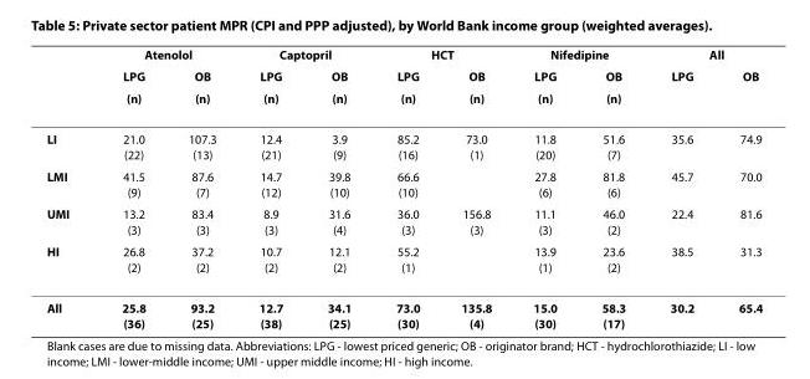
<table><thead><tr><td rowspan="3"></td><td colspan="2">Atenolol</td><td colspan="2">Captopril</td><td colspan="2">HCT</td><td colspan="2">Nifedipine</td><td colspan="2">All</td></tr><tr><td rowspan="2">LPG (n)</td><td rowspan="2">OB (n)</td><td rowspan="2">LPG (n)</td><td rowspan="2">OB (n)</td><td rowspan="2">LPG (n)</td><td rowspan="2">OB (n)</td><td rowspan="2">LPG (n)</td><td rowspan="2">OB (n)</td><td rowspan="2">LPG</td><td rowspan="2">OB</td></tr><tr></tr></thead><tbody><tr><td>LI</td><td>21.0 (22)</td><td>107.3 (13)</td><td>12.4 (21)</td><td>3.9 (9)</td><td>85.2 (16)</td><td>73.0 (1)</td><td>11.8 (20)</td><td>51.6 (7)</td><td>35.6</td><td>74.9</td></tr><tr><td>LMI</td><td>41.5 (9)</td><td>87.6 (7)</td><td>14.7 (12)</td><td>39.8 (10)</td><td>66.6 (10)</td><td></td><td>27.8 (6)</td><td>81.8 (6)</td><td>45.7</td><td>70.0</td></tr><tr><td>UMI</td><td>13.2 (3)</td><td>83.4 (3)</td><td>8.9 (3)</td><td>31.6 (4)</td><td>36.0 (3)</td><td>156.8 (3)</td><td>11.1 (3)</td><td>46.0 (2)</td><td>22.4</td><td>81.6</td></tr><tr><td>HI</td><td>26.8 (2)</td><td>37.2 (2)</td><td>10.7 (2)</td><td>12.1 (2)</td><td>55.2 (1)</td><td></td><td>13.9 (1)</td><td>23.6 (2)</td><td>38.5</td><td>31.3</td></tr><tr><td>All</td><td>25.8 (36)</td><td>93.2 (25)</td><td>12.7 (38)</td><td>34.1 (25)</td><td>73.0 (30)</td><td>135.8 (4)</td><td>15.0 (30)</td><td>58.3 (17)</td><td>30.2</td><td>65.4</td></tr></tbody></table>